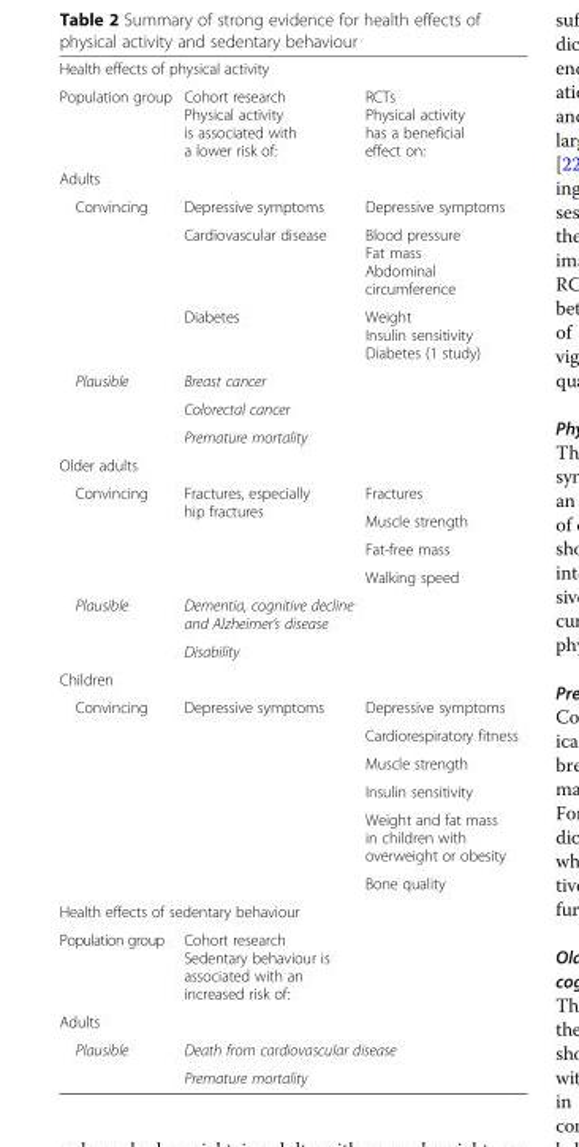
<table><tbody><tr><td colspan="3">Health effects of physical activity</td></tr><tr><td>Population group</td><td>Cohort research Physical activity is associated with a lower risk of:</td><td>RCTs Physical activity has a beneficial effect on:</td></tr><tr><td colspan="3">Adults</td></tr><tr><td rowspan="3">Convincing</td><td>Depressive symptoms</td><td>Depressive symptoms</td></tr><tr><td>Cardiovascular disease</td><td>Blood pressure Fat mass Abdominal circumference</td></tr><tr><td>Diabetes</td><td>Weight Insulin sensitivity Diabetes (1 study)</td></tr><tr><td rowspan="3">Plausible</td><td colspan="2">Breast cancer</td></tr><tr><td colspan="2">Colorectal cancer</td></tr><tr><td colspan="2">Premature mortality</td></tr><tr><td colspan="3">Older adults</td></tr><tr><td rowspan="4">Convincing</td><td rowspan="4">Fractures, especially hip fractures</td><td>Fractures</td></tr><tr><td>Muscle strength</td></tr><tr><td>Fat-free mass</td></tr><tr><td>Walking speed</td></tr><tr><td rowspan="2">Plausible</td><td>Dementia, cognitive decline and Alzheimer’s disease</td><td rowspan="2"></td></tr><tr><td>Disability</td></tr><tr><td colspan="3">Children</td></tr><tr><td rowspan="6">Convincing</td><td rowspan="6">Depressive symptoms</td><td>Depressive symptoms</td></tr><tr><td>Cardiorespiratory fitness</td></tr><tr><td>Muscle strength</td></tr><tr><td>Insulin sensitivity</td></tr><tr><td>Weight and fat mass in children with overweight or obesity</td></tr><tr><td>Bone quality</td></tr><tr><td colspan="3">Health effects of sedentary behaviour</td></tr><tr><td>Population group</td><td colspan="2">Cohort research Sedentary behaviour is associated with an increased risk of:</td></tr><tr><td colspan="3">Adults</td></tr><tr><td rowspan="2">Plausible</td><td colspan="2">Death from cardiovascular disease</td></tr><tr><td colspan="2">Premature mortality</td></tr></tbody></table>